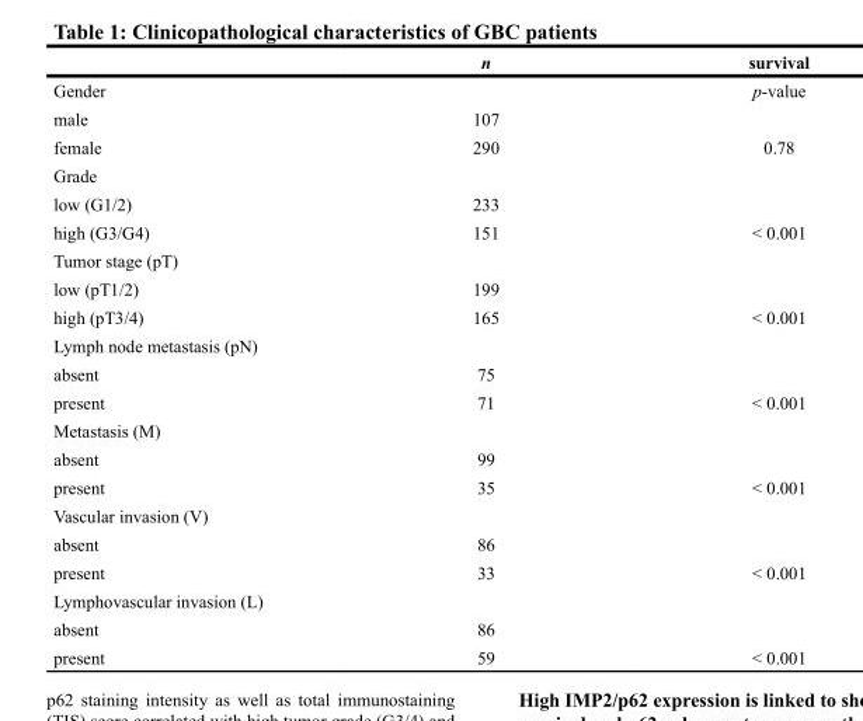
<table><thead><tr><td></td><td>n</td><td>survival</td></tr></thead><tbody><tr><td>Gender</td><td></td><td>p-value</td></tr><tr><td>male</td><td>107</td><td></td></tr><tr><td>female</td><td>290</td><td>0.78</td></tr><tr><td colspan="3">Grade</td></tr><tr><td>low (G1/2)</td><td>233</td><td></td></tr><tr><td>high (G3/G4)</td><td>151</td><td>&lt; 0.001</td></tr><tr><td colspan="3">Tumor stage (pT)</td></tr><tr><td>low (pT1/2)</td><td>199</td><td></td></tr><tr><td>high (pT3/4)</td><td>165</td><td>&lt; 0.001</td></tr><tr><td colspan="3">Lymph node metastasis (pN)</td></tr><tr><td>absent</td><td>75</td><td></td></tr><tr><td>present</td><td>71</td><td>&lt; 0.001</td></tr><tr><td colspan="3">Metastasis (M)</td></tr><tr><td>absent</td><td>99</td><td></td></tr><tr><td>present</td><td>35</td><td>&lt; 0.001</td></tr><tr><td colspan="3">Vascular invasion (V)</td></tr><tr><td>absent</td><td>86</td><td></td></tr><tr><td>present</td><td>33</td><td>&lt; 0.001</td></tr><tr><td colspan="3">Lymphovascular invasion (L)</td></tr><tr><td>absent</td><td>86</td><td></td></tr><tr><td>present</td><td>59</td><td>&lt; 0.001</td></tr></tbody></table>